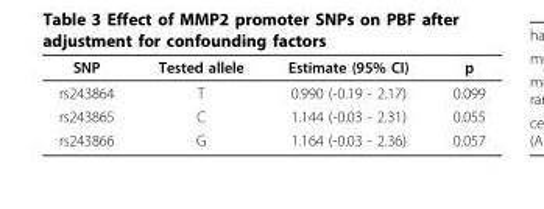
<table><thead><tr><td>SNP</td><td>Tested allele</td><td>Estimate (95% CI)</td><td>p</td></tr></thead><tbody><tr><td>rs243864</td><td>T</td><td>0.990 (-0.19 - 2.17)</td><td>0.099</td></tr><tr><td>rs243865</td><td>C</td><td>1.144 (-0.03 - 2.31)</td><td>0.055</td></tr><tr><td>rs243866</td><td>G</td><td>1.164 (-0.03 - 2.36)</td><td>0.057</td></tr></tbody></table>